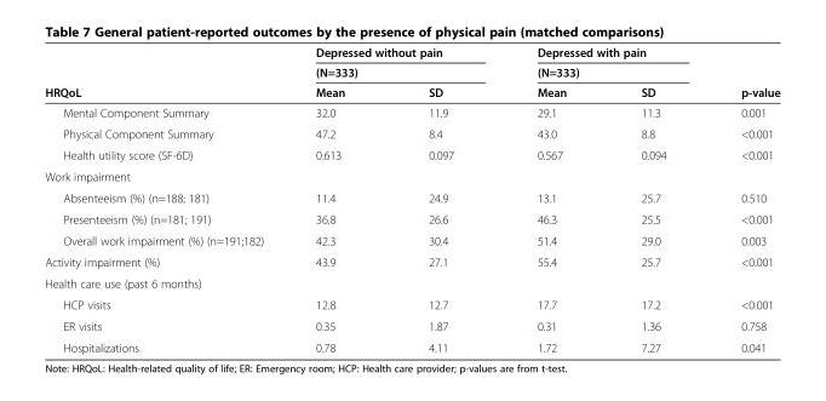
<table><thead><tr><td rowspan="3">HRQoL</td><td rowspan="2" colspan="2">Depressed without pain (N=333)</td><td rowspan="2" colspan="2">Depressed with pain (N=333)</td><td rowspan="3">p-value</td></tr><tr></tr><tr><td>Mean</td><td>SD</td><td>Mean</td><td>SD</td></tr></thead><tbody><tr><td>Mental Component Summary</td><td>32.0</td><td>11.9</td><td>29.1</td><td>11.3</td><td>0.001</td></tr><tr><td>Physical Component Summary</td><td>47.2</td><td>8.4</td><td>43.0</td><td>8.8</td><td>&lt;0.001</td></tr><tr><td>Health utility score (SF-6D)</td><td>0.613</td><td>0.097</td><td>0.567</td><td>0.094</td><td>&lt;0.001</td></tr><tr><td colspan="6">Work impairment</td></tr><tr><td>Absenteeism (%) (n=188; 181)</td><td>11.4</td><td>24.9</td><td>13.1</td><td>25.7</td><td>0.510</td></tr><tr><td>Presenteeism (%) (n=181; 191)</td><td>36.8</td><td>26.6</td><td>46.3</td><td>25.5</td><td>&lt;0.001</td></tr><tr><td>Overall work impairment (%) (n=191;182)</td><td>42.3</td><td>30.4</td><td>51.4</td><td>29.0</td><td>0.003</td></tr><tr><td>Activity impairment (%)</td><td>43.9</td><td>27.1</td><td>55.4</td><td>25.7</td><td>&lt;0.001</td></tr><tr><td colspan="6">Health care use (past 6 months)</td></tr><tr><td>HCP visits</td><td>12.8</td><td>12.7</td><td>17.7</td><td>17.2</td><td>&lt;0.001</td></tr><tr><td>ER visits</td><td>0.35</td><td>1.87</td><td>0.31</td><td>1.36</td><td>0.758</td></tr><tr><td>Hospitalizations</td><td>0.78</td><td>4.11</td><td>1.72</td><td>7.27</td><td>0.041</td></tr></tbody></table>